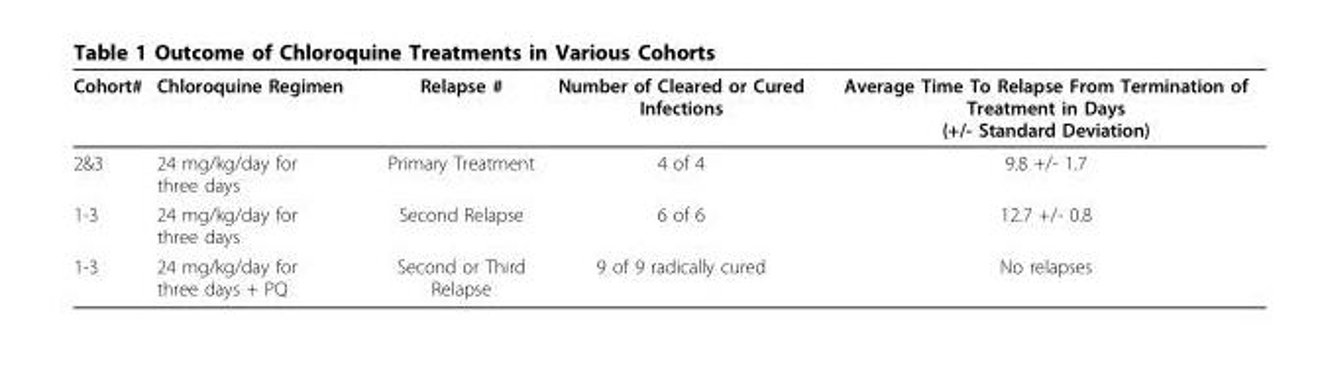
<table><thead><tr><td>Cohort#</td><td>Chloroquine Regimen</td><td>Relapse #</td><td>Number of Cleared or Cured Infections</td><td>Average Time To Relapse From Termination of Treatment in Days (+/- Standard Deviation)</td></tr></thead><tbody><tr><td>2&amp;3</td><td>24 mg/kg/day for three days</td><td>Primary Treatment</td><td>4 of 4</td><td>9.8 +/- 1.7</td></tr><tr><td>1-3</td><td>24 mg/kg/day for three days</td><td>Second Relapse</td><td>6 of 6</td><td>12.7 +/- 0.8</td></tr><tr><td>1-3</td><td>24 mg/kg/day for three days + PQ</td><td>Second or Third Relapse</td><td>9 of 9 radically cured</td><td>No relapses</td></tr></tbody></table>